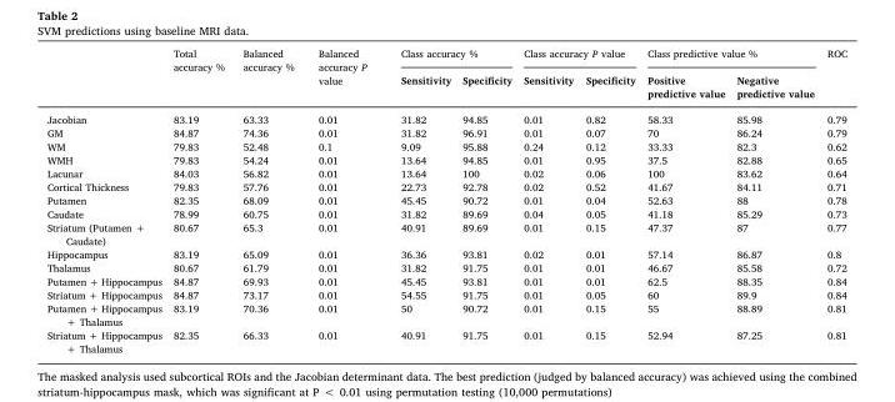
<table><thead><tr><td rowspan="2"></td><td rowspan="2">Total accuracy %</td><td rowspan="2">Balanced accuracy %</td><td rowspan="2">Balanced accuracy P value</td><td colspan="2">Class accuracy %</td><td colspan="2">Class accuracy P value</td><td colspan="2">Class predictive value %</td><td rowspan="2">ROC</td></tr><tr><td>Sensitivity</td><td>Specificity</td><td>Sensitivity</td><td>Specificity</td><td>Positive predictive value</td><td>Negative predictive value</td></tr></thead><tbody><tr><td>Jacobian</td><td>83.19</td><td>63.33</td><td>0.01</td><td>31.82</td><td>94.85</td><td>0.01</td><td>0.82</td><td>58.33</td><td>85.98</td><td>0.79</td></tr><tr><td>GM</td><td>84.87</td><td>74.36</td><td>0.01</td><td>31.82</td><td>96.91</td><td>0.01</td><td>0.07</td><td>70</td><td>86.24</td><td>0.79</td></tr><tr><td>WM</td><td>79.83</td><td>52.48</td><td>0.1</td><td>9.09</td><td>95.88</td><td>0.24</td><td>0.12</td><td>33.33</td><td>82.3</td><td>0.62</td></tr><tr><td>WMH</td><td>79.83</td><td>54.24</td><td>0.01</td><td>13.64</td><td>94.85</td><td>0.01</td><td>0.95</td><td>37.5</td><td>82.88</td><td>0.65</td></tr><tr><td>Lacunar</td><td>84.03</td><td>56.82</td><td>0.01</td><td>13.64</td><td>100</td><td>0.02</td><td>0.06</td><td>100</td><td>83.62</td><td>0.64</td></tr><tr><td>Cortical Thickness</td><td>79.83</td><td>57.76</td><td>0.01</td><td>22.73</td><td>92.78</td><td>0.02</td><td>0.52</td><td>41.67</td><td>84.11</td><td>0.71</td></tr><tr><td>Putamen</td><td>82.35</td><td>68.09</td><td>0.01</td><td>45.45</td><td>90.72</td><td>0.01</td><td>0.04</td><td>52.63</td><td>88</td><td>0.78</td></tr><tr><td>Caudate</td><td>78.99</td><td>60.75</td><td>0.01</td><td>31.82</td><td>89.69</td><td>0.04</td><td>0.05</td><td>41.18</td><td>85.29</td><td>0.73</td></tr><tr><td>Striatum (Putamen + Caudate)</td><td>80.67</td><td>65.3</td><td>0.01</td><td>40.91</td><td>89.69</td><td>0.01</td><td>0.15</td><td>47.37</td><td>87</td><td>0.77</td></tr><tr><td>Hippocampus</td><td>83.19</td><td>65.09</td><td>0.01</td><td>36.36</td><td>93.81</td><td>0.02</td><td>0.01</td><td>57.14</td><td>86.87</td><td>0.8</td></tr><tr><td>Thalamus</td><td>80.67</td><td>61.79</td><td>0.01</td><td>31.82</td><td>91.75</td><td>0.01</td><td>0.01</td><td>46.67</td><td>85.58</td><td>0.72</td></tr><tr><td>Putamen + Hippocampus</td><td>84.87</td><td>69.93</td><td>0.01</td><td>45.45</td><td>93.81</td><td>0.01</td><td>0.01</td><td>62.5</td><td>88.35</td><td>0.84</td></tr><tr><td>Striatum + Hippocampus</td><td>84.87</td><td>73.17</td><td>0.01</td><td>54.55</td><td>91.75</td><td>0.01</td><td>0.05</td><td>60</td><td>89.9</td><td>0.84</td></tr><tr><td>Putamen + Hippocampus + Thalamus</td><td>83.19</td><td>70.36</td><td>0.01</td><td>50</td><td>90.72</td><td>0.01</td><td>0.15</td><td>55</td><td>88.89</td><td>0.81</td></tr><tr><td>Striatum + Hippocampus + Thalamus</td><td>82.35</td><td>66.33</td><td>0.01</td><td>40.91</td><td>91.75</td><td>0.01</td><td>0.15</td><td>52.94</td><td>87.25</td><td>0.81</td></tr></tbody></table>